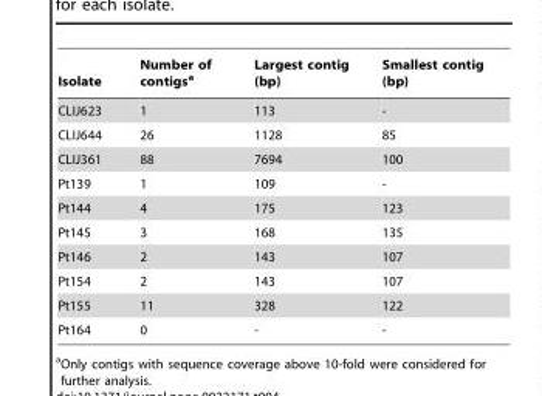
<table><thead><tr><td>Isolate</td><td>Number of contigs<sup>a</sup></td><td>Largest contig (bp)</td><td>Smallest contig (bp)</td></tr></thead><tbody><tr><td>CLIJ623</td><td>1</td><td>113</td><td>-</td></tr><tr><td>CLIJ644</td><td>26</td><td>1128</td><td>85</td></tr><tr><td>CLIJ361</td><td>88</td><td>7694</td><td>100</td></tr><tr><td>Pt139</td><td>1</td><td>109</td><td>-</td></tr><tr><td>Pt144</td><td>4</td><td>175</td><td>123</td></tr><tr><td>Pt145</td><td>3</td><td>168</td><td>135</td></tr><tr><td>Pt146</td><td>2</td><td>143</td><td>107</td></tr><tr><td>Pt154</td><td>2</td><td>143</td><td>107</td></tr><tr><td>Pt155</td><td>11</td><td>328</td><td>122</td></tr><tr><td>Pt164</td><td>0</td><td>-</td><td>-</td></tr></tbody></table>